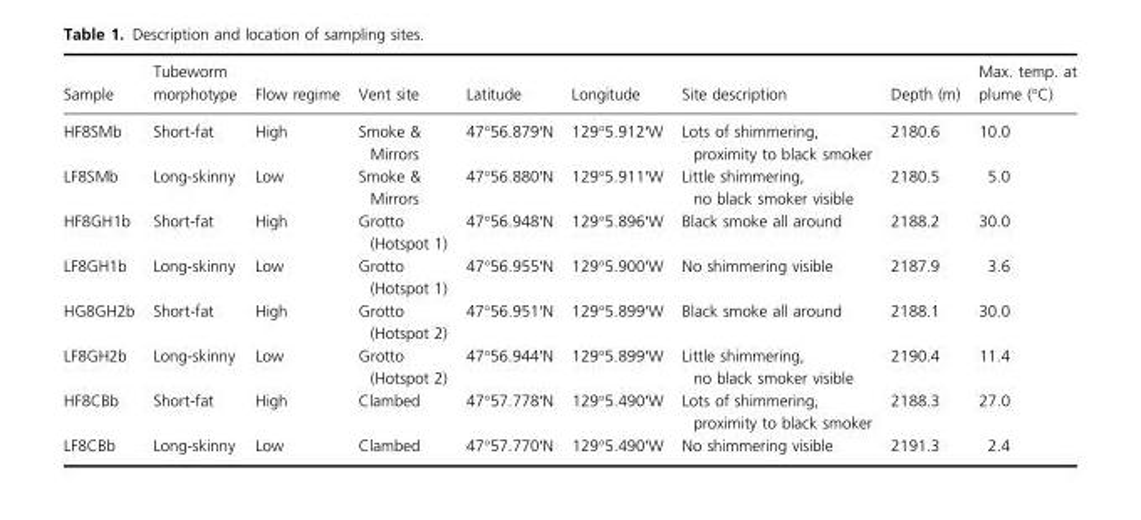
<table><thead><tr><td>Sample</td><td>Tubeworm morphotype</td><td>Flow regime</td><td>Vent site</td><td>Latitude</td><td>Longitude</td><td>Site description</td><td>Depth (m)</td><td>Max. temp. at plume (°C)</td></tr></thead><tbody><tr><td>HF8SMb</td><td>Short-fat</td><td>High</td><td>Smoke &amp; Mirrors</td><td>47°56.879′N</td><td>129°5.912′W</td><td>Lots of shimmering, proximity to black smoker</td><td>2180.6</td><td>10.0</td></tr><tr><td>LF8SMb</td><td>Long-skinny</td><td>Low</td><td>Smoke &amp; Mirrors</td><td>47°56.880′N</td><td>129°5.911′W</td><td>Little shimmering, no black smoker visible</td><td>2180.5</td><td>5.0</td></tr><tr><td>HF8GH1b</td><td>Short-fat</td><td>High</td><td>Grotto (Hotspot 1)</td><td>47°56.948′N</td><td>129°5.896′W</td><td>Black smoke all around</td><td>2188.2</td><td>30.0</td></tr><tr><td>LF8GH1b</td><td>Long-skinny</td><td>Low</td><td>Grotto (Hotspot 1)</td><td>47°56.955′N</td><td>129°5.900′W</td><td>No shimmering visible</td><td>2187.9</td><td>3.6</td></tr><tr><td>HG8GH2b</td><td>Short-fat</td><td>High</td><td>Grotto (Hotspot 2)</td><td>47°56.951′N</td><td>129°5.899′W</td><td>Black smoke all around</td><td>2188.1</td><td>30.0</td></tr><tr><td>LF8GH2b</td><td>Long-skinny</td><td>Low</td><td>Grotto (Hotspot 2)</td><td>47°56.944′N</td><td>129°5.899′W</td><td>Little shimmering, no black smoker visible</td><td>2190.4</td><td>11.4</td></tr><tr><td>HF8CBb</td><td>Short-fat</td><td>High</td><td>Clambed</td><td>47°57.778′N</td><td>129°5.490′W</td><td>Lots of shimmering, proximity to black smoker</td><td>2188.3</td><td>27.0</td></tr><tr><td>LF8CBb</td><td>Long-skinny</td><td>Low</td><td>Clambed</td><td>47°57.770′N</td><td>129°5.490′W</td><td>No shimmering visible</td><td>2191.3</td><td>2.4</td></tr></tbody></table>